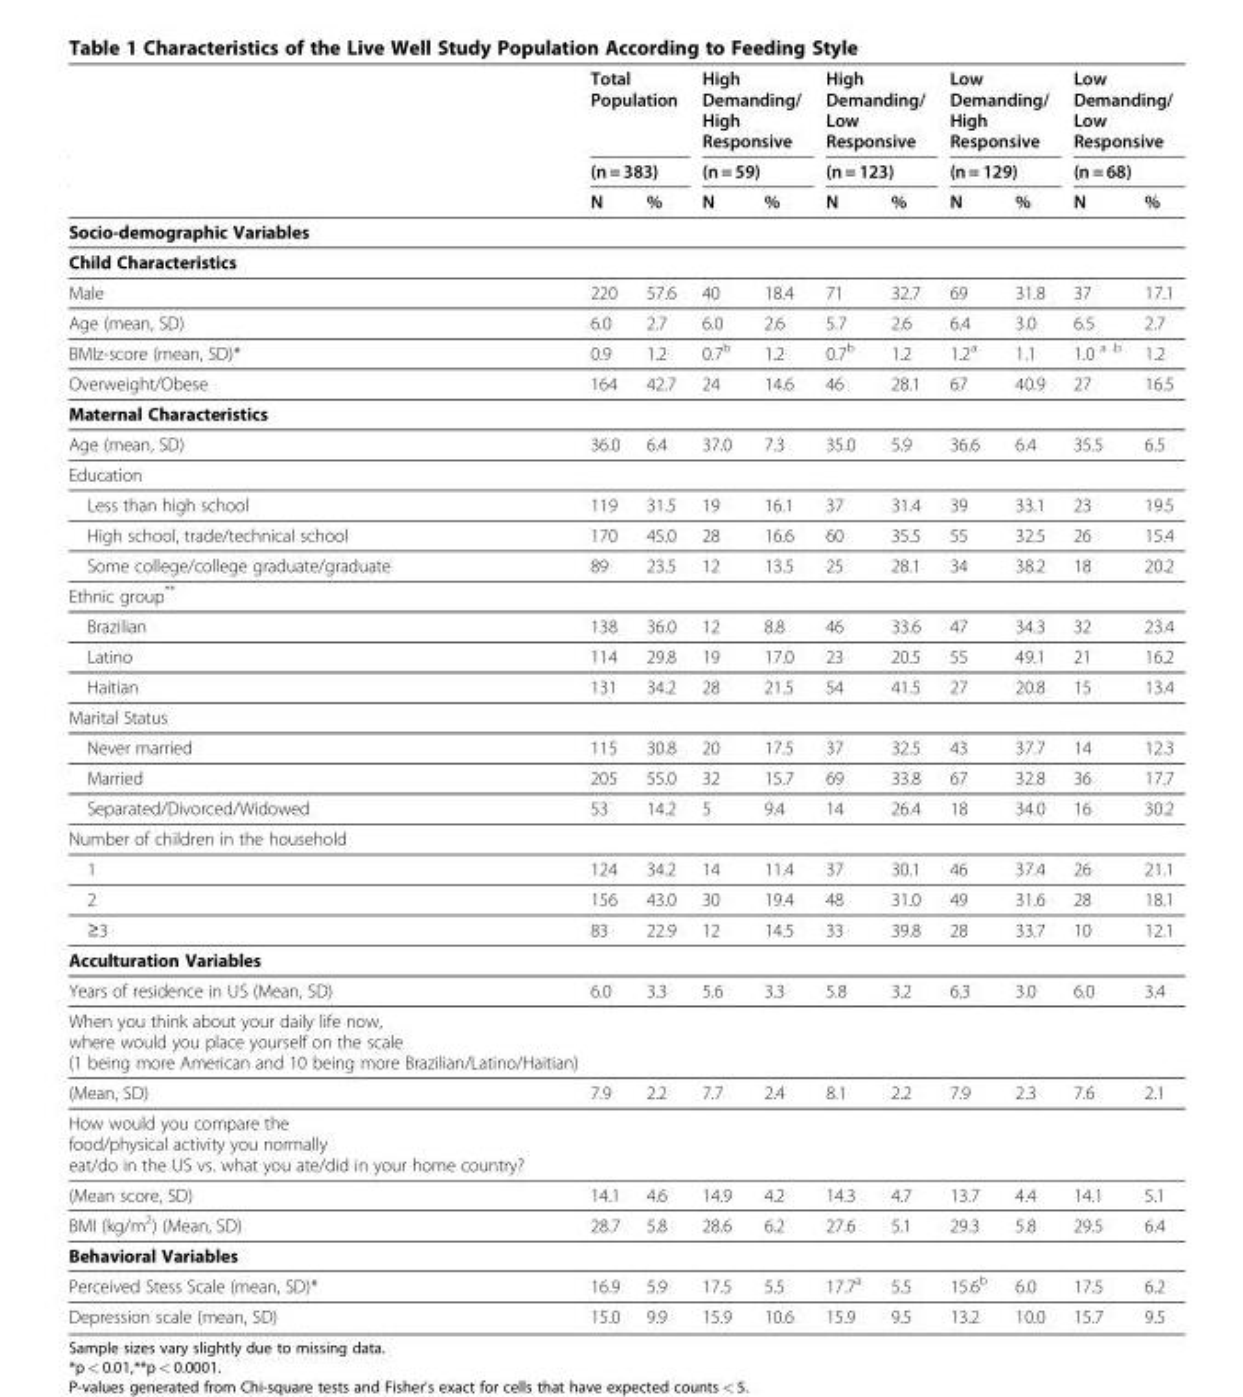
<table><thead><tr><td rowspan="3"></td><td rowspan="2" colspan="2">Total Population (n = 383)</td><td rowspan="2" colspan="2">High Demanding/ High Responsive (n = 59)</td><td rowspan="2" colspan="2">High Demanding/ Low Responsive (n = 123)</td><td rowspan="2" colspan="2">Low Demanding/ High Responsive (n = 129)</td><td rowspan="2" colspan="2">Low Demanding/ Low Responsive (n = 68)</td></tr><tr></tr><tr><td>N</td><td>%</td><td>N</td><td>%</td><td>N</td><td>%</td><td>N</td><td>%</td><td>N</td><td>%</td></tr></thead><tbody><tr><td colspan="11">Socio-demographic Variables</td></tr><tr><td colspan="11">Child Characteristics</td></tr><tr><td>Male</td><td>220</td><td>57.6</td><td>40</td><td>18.4</td><td>71</td><td>32.7</td><td>69</td><td>31.8</td><td>37</td><td>17.1</td></tr><tr><td>Age (mean, SD)</td><td>6.0</td><td>2.7</td><td>6.0</td><td>2.6</td><td>5.7</td><td>2.6</td><td>6.4</td><td>3.0</td><td>6.5</td><td>2.7</td></tr><tr><td>BMIz-score (mean, SD)*</td><td>0.9</td><td>1.2</td><td>0.7<sup>b</sup></td><td>1.2</td><td>0.7<sup>b</sup></td><td>1.2</td><td>1.2<sup>a</sup></td><td>1.1</td><td>1.0 <sup>a .b</sup></td><td>1.2</td></tr><tr><td>Overweight/Obese</td><td>164</td><td>42.7</td><td>24</td><td>14.6</td><td>46</td><td>28.1</td><td>67</td><td>40.9</td><td>27</td><td>16.5</td></tr><tr><td colspan="11">Maternal Characteristics</td></tr><tr><td>Age (mean, SD)</td><td>36.0</td><td>6.4</td><td>37.0</td><td>7.3</td><td>35.0</td><td>5.9</td><td>36.6</td><td>6.4</td><td>35.5</td><td>6.5</td></tr><tr><td colspan="11">Education</td></tr><tr><td>Less than high school</td><td>119</td><td>31.5</td><td>19</td><td>16.1</td><td>37</td><td>31.4</td><td>39</td><td>33.1</td><td>23</td><td>19.5</td></tr><tr><td>High school, trade/technical school</td><td>170</td><td>45.0</td><td>28</td><td>16.6</td><td>60</td><td>35.5</td><td>55</td><td>32.5</td><td>26</td><td>15.4</td></tr><tr><td>Some college/college graduate/graduate</td><td>89</td><td>23.5</td><td>12</td><td>13.5</td><td>25</td><td>28.1</td><td>34</td><td>38.2</td><td>18</td><td>20.2</td></tr><tr><td colspan="11">Ethnic group**</td></tr><tr><td>Brazilian</td><td>138</td><td>36.0</td><td>12</td><td>8.8</td><td>46</td><td>33.6</td><td>47</td><td>34.3</td><td>32</td><td>23.4</td></tr><tr><td>Latino</td><td>114</td><td>29.8</td><td>19</td><td>17.0</td><td>23</td><td>20.5</td><td>55</td><td>49.1</td><td>21</td><td>16.2</td></tr><tr><td>Haitian</td><td>131</td><td>34.2</td><td>28</td><td>21.5</td><td>54</td><td>41.5</td><td>27</td><td>20.8</td><td>15</td><td>13.4</td></tr><tr><td colspan="11">Marital Status</td></tr><tr><td>Never married</td><td>115</td><td>30.8</td><td>20</td><td>17.5</td><td>37</td><td>32.5</td><td>43</td><td>37.7</td><td>14</td><td>12.3</td></tr><tr><td>Married</td><td>205</td><td>55.0</td><td>32</td><td>15.7</td><td>69</td><td>33.8</td><td>67</td><td>32.8</td><td>36</td><td>17.7</td></tr><tr><td>Separated/Divorced/Widowed</td><td>53</td><td>14.2</td><td>5</td><td>9.4</td><td>14</td><td>26.4</td><td>18</td><td>34.0</td><td>16</td><td>30.2</td></tr><tr><td colspan="11">Number of children in the household</td></tr><tr><td>1</td><td>124</td><td>34.2</td><td>14</td><td>11.4</td><td>37</td><td>30.1</td><td>46</td><td>37.4</td><td>26</td><td>21.1</td></tr><tr><td>2</td><td>156</td><td>43.0</td><td>30</td><td>19.4</td><td>48</td><td>31.0</td><td>49</td><td>31.6</td><td>28</td><td>18.1</td></tr><tr><td>≥3</td><td>83</td><td>22.9</td><td>12</td><td>14.5</td><td>33</td><td>39.8</td><td>28</td><td>33.7</td><td>10</td><td>12.1</td></tr><tr><td colspan="11">Acculturation Variables</td></tr><tr><td>Years of residence in US (Mean, SD)</td><td>6.0</td><td>3.3</td><td>5.6</td><td>3.3</td><td>5.8</td><td>3.2</td><td>6.3</td><td>3.0</td><td>6.0</td><td>3.4</td></tr><tr><td colspan="11">When you think about your daily life now, where would you place yourself on the scale (1 being more American and 10 being more Brazilian/Latino/Haitian)</td></tr><tr><td>(Mean, SD)</td><td>7.9</td><td>2.2</td><td>7.7</td><td>2.4</td><td>8.1</td><td>2.2</td><td>7.9</td><td>2.3</td><td>7.6</td><td>2.1</td></tr><tr><td colspan="11">How would you compare the food/physical activity you normally eat/do in the US vs. what you ate/did in your home country?</td></tr><tr><td>(Mean score, SD)</td><td>14.1</td><td>4.6</td><td>14.9</td><td>4.2</td><td>14.3</td><td>4.7</td><td>13.7</td><td>4.4</td><td>14.1</td><td>5.1</td></tr><tr><td>BMI (kg/m<sup>2</sup>) (Mean, SD)</td><td>28.7</td><td>5.8</td><td>28.6</td><td>6.2</td><td>27.6</td><td>5.1</td><td>29.3</td><td>5.8</td><td>29.5</td><td>6.4</td></tr><tr><td colspan="11">Behavioral Variables</td></tr><tr><td>Perceived Stess Scale (mean, SD)*</td><td>16.9</td><td>5.9</td><td>17.5</td><td>5.5</td><td>17.7<sup>a</sup></td><td>5.5</td><td>15.6<sup>b</sup></td><td>6.0</td><td>17.5</td><td>6.2</td></tr><tr><td>Depression scale (mean, SD)</td><td>15.0</td><td>9.9</td><td>15.9</td><td>10.6</td><td>15.9</td><td>9.5</td><td>13.2</td><td>10.0</td><td>15.7</td><td>9.5</td></tr></tbody></table>